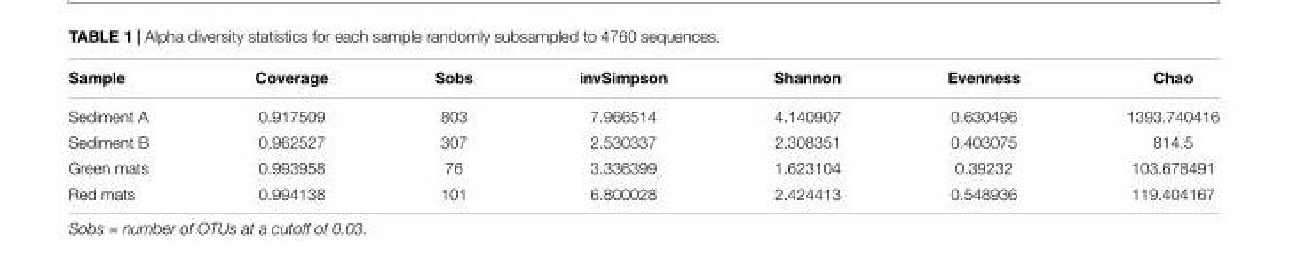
<table><thead><tr><td>Sample</td><td>Coverage</td><td>Sobs</td><td>invSimpson</td><td>Shannon</td><td>Evenness</td><td>Chao</td></tr></thead><tbody><tr><td>Sediment A</td><td>0.917509</td><td>803</td><td>7.966514</td><td>4.140907</td><td>0.630496</td><td>1393.740416</td></tr><tr><td>Sediment B</td><td>0.962527</td><td>307</td><td>2.530337</td><td>2.308351</td><td>0.403075</td><td>814.5</td></tr><tr><td>Green mats</td><td>0.993958</td><td>76</td><td>3.336399</td><td>1.623104</td><td>0.39232</td><td>103.678491</td></tr><tr><td>Red mats</td><td>0.994138</td><td>101</td><td>6.800028</td><td>2.424413</td><td>0.548936</td><td>119.404167</td></tr></tbody></table>